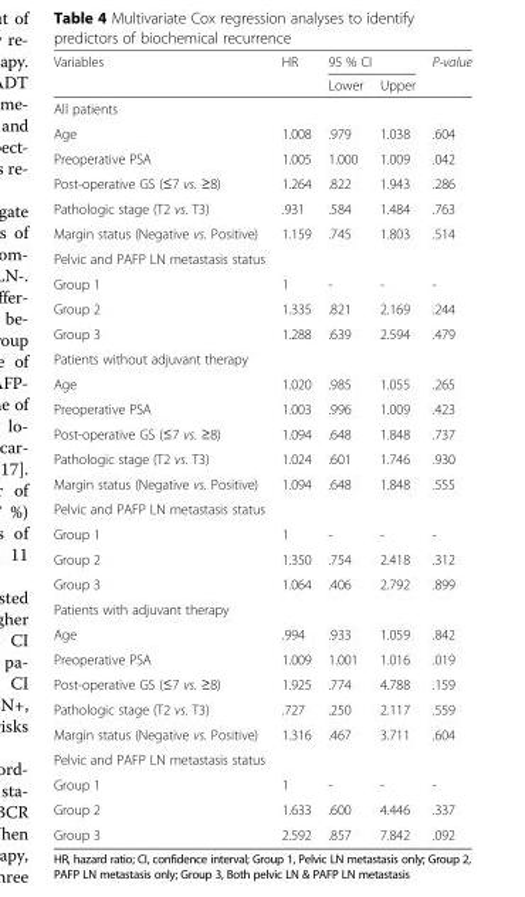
<table><thead><tr><td rowspan="2">Variables</td><td rowspan="2">HR</td><td colspan="2">95 % CI</td><td rowspan="2">P-value</td></tr><tr><td>Lower</td><td>Upper</td></tr></thead><tbody><tr><td colspan="5">All patients</td></tr><tr><td>Age</td><td>1.008</td><td>.979</td><td>1.038</td><td>.604</td></tr><tr><td>Preoperative PSA</td><td>1.005</td><td>1.000</td><td>1.009</td><td>.042</td></tr><tr><td>Post-operative GS (≤7 vs. ≥8)</td><td>1.264</td><td>.822</td><td>1.943</td><td>.286</td></tr><tr><td>Pathologic stage (T2 vs. T3)</td><td>.931</td><td>.584</td><td>1.484</td><td>.763</td></tr><tr><td>Margin status (Negative vs. Positive)</td><td>1.159</td><td>.745</td><td>1.803</td><td>.514</td></tr><tr><td colspan="5">Pelvic and PAFP LN metastasis status</td></tr><tr><td>Group 1</td><td>1</td><td>-</td><td>-</td><td>-</td></tr><tr><td>Group 2</td><td>1.335</td><td>.821</td><td>2.169</td><td>.244</td></tr><tr><td>Group 3</td><td>1.288</td><td>.639</td><td>2.594</td><td>.479</td></tr><tr><td colspan="5">Patients without adjuvant therapy</td></tr><tr><td>Age</td><td>1.020</td><td>.985</td><td>1.055</td><td>.265</td></tr><tr><td>Preoperative PSA</td><td>1.003</td><td>.996</td><td>1.009</td><td>.423</td></tr><tr><td>Post-operative GS (≤7 vs. ≥8)</td><td>1.094</td><td>.648</td><td>1.848</td><td>.737</td></tr><tr><td>Pathologic stage (T2 vs. T3)</td><td>1.024</td><td>.601</td><td>1.746</td><td>.930</td></tr><tr><td>Margin status (Negative vs. Positive)</td><td>1.094</td><td>.648</td><td>1.848</td><td>.555</td></tr><tr><td colspan="5">Pelvic and PAFP LN metastasis status</td></tr><tr><td>Group 1</td><td>1</td><td>-</td><td>-</td><td>-</td></tr><tr><td>Group 2</td><td>1.350</td><td>.754</td><td>2.418</td><td>.312</td></tr><tr><td>Group 3</td><td>1.064</td><td>.406</td><td>2.792</td><td>.899</td></tr><tr><td colspan="5">Patients with adjuvant therapy</td></tr><tr><td>Age</td><td>.994</td><td>.933</td><td>1.059</td><td>.842</td></tr><tr><td>Preoperative PSA</td><td>1.009</td><td>1.001</td><td>1.016</td><td>.019</td></tr><tr><td>Post-operative GS (≤7 vs. ≥8)</td><td>1.925</td><td>.774</td><td>4.788</td><td>.159</td></tr><tr><td>Pathologic stage (T2 vs. T3)</td><td>.727</td><td>.250</td><td>2.117</td><td>.559</td></tr><tr><td>Margin status (Negative vs. Positive)</td><td>1.316</td><td>.467</td><td>3.711</td><td>.604</td></tr><tr><td colspan="5">Pelvic and PAFP LN metastasis status</td></tr><tr><td>Group 1</td><td>1</td><td>-</td><td>-</td><td>-</td></tr><tr><td>Group 2</td><td>1.633</td><td>.600</td><td>4.446</td><td>.337</td></tr><tr><td>Group 3</td><td>2.592</td><td>.857</td><td>7.842</td><td>.092</td></tr></tbody></table>